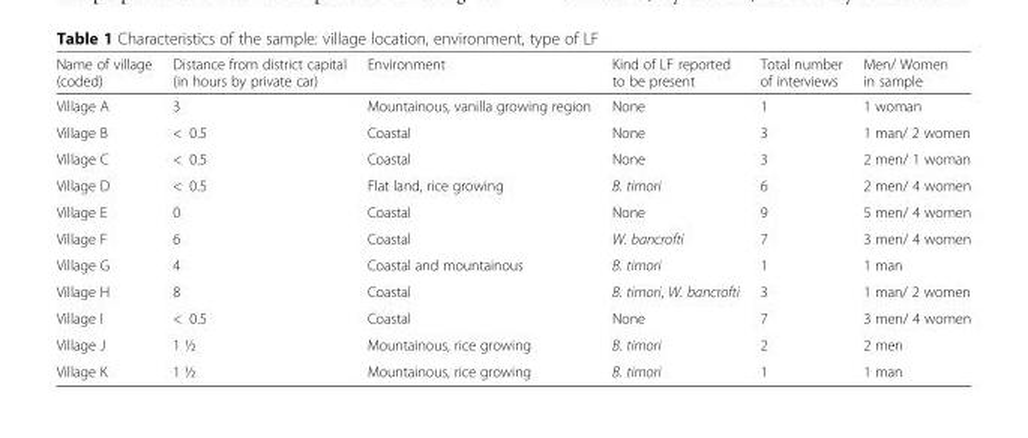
<table><thead><tr><td>Name of village (coded)</td><td>Distance from district capital (in hours by private car)</td><td>Environment</td><td>Kind of LF reported to be present</td><td>Total number of interviews</td><td>Men/ Women in sample</td></tr></thead><tbody><tr><td>Village A</td><td>3</td><td>Mountainous, vanilla growing region</td><td>None</td><td>1</td><td>1 woman</td></tr><tr><td>Village B</td><td>&lt; 0.5</td><td>Coastal</td><td>None</td><td>3</td><td>1 man/ 2 women</td></tr><tr><td>Village C</td><td>&lt; 0.5</td><td>Coastal</td><td>None</td><td>3</td><td>2 men/ 1 woman</td></tr><tr><td>Village D</td><td>&lt; 0.5</td><td>Flat land, rice growing</td><td>B. timori</td><td>6</td><td>2 men/ 4 women</td></tr><tr><td>Village E</td><td>0</td><td>Coastal</td><td>None</td><td>9</td><td>5 men/ 4 women</td></tr><tr><td>Village F</td><td>6</td><td>Coastal</td><td>W. bancrofti</td><td>7</td><td>3 men/ 4 women</td></tr><tr><td>Village G</td><td>4</td><td>Coastal and mountainous</td><td>B. timori</td><td>1</td><td>1 man</td></tr><tr><td>Village H</td><td>8</td><td>Coastal</td><td>B. timori, W. bancrofti</td><td>3</td><td>1 man/ 2 women</td></tr><tr><td>Village I</td><td>&lt; 0.5</td><td>Coastal</td><td>None</td><td>7</td><td>3 men/ 4 women</td></tr><tr><td>Village J</td><td>1 ½</td><td>Mountainous, rice growing</td><td>B. timori</td><td>2</td><td>2 men</td></tr><tr><td>Village K</td><td>1 ½</td><td>Mountainous, rice growing</td><td>B. timori</td><td>1</td><td>1 man</td></tr></tbody></table>